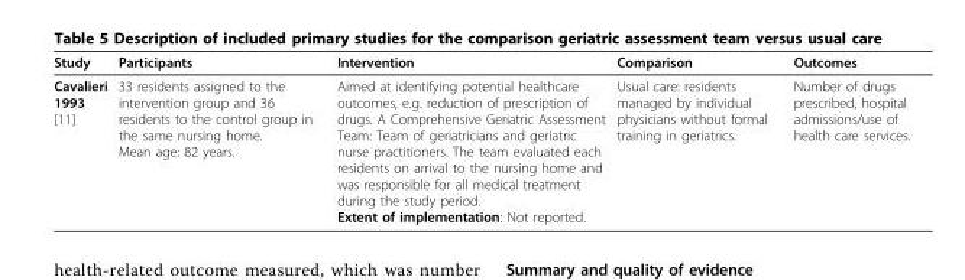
<table><thead><tr><td>Study</td><td>Participants</td><td>Intervention</td><td>Comparison</td><td>Outcomes</td></tr></thead><tbody><tr><td>Cavalieri 1993 [11]</td><td>33 residents assigned to the intervention group and 36 residents to the control group in the same nursing home. Mean age: 82 years.</td><td>Aimed at identifying potential healthcare outcomes, e.g. reduction of prescription of drugs. A Comprehensive Geriatric Assessment Team: Team of geriatricians and geriatric nurse practitioners. The team evaluated each residents on arrival to the nursing home and was responsible for all medical treatment during the study period. Extent of implementation: Not reported.</td><td>Usual care: residents managed by individual physicians without formal training in geriatrics.</td><td>Number of drugs prescribed, hospital admissions/use of health care services.</td></tr></tbody></table>